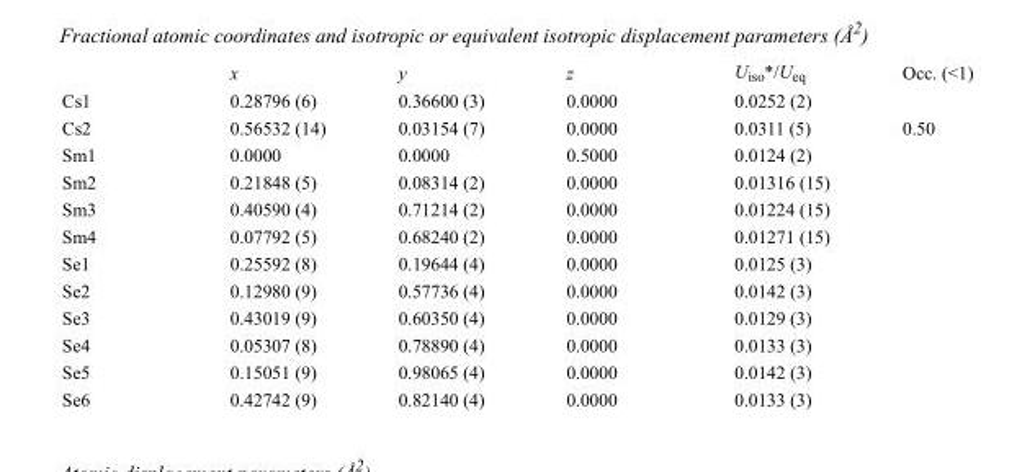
<table><thead><tr><td></td><td>x</td><td>y</td><td>z</td><td>U<sub>iso</sub>*/U<sub>eq</sub></td><td>Occ. (&lt;1)</td></tr></thead><tbody><tr><td>Cs1</td><td>0.28796 (6)</td><td>0.36600 (3)</td><td>0.0000</td><td>0.0252 (2)</td><td></td></tr><tr><td>Cs2</td><td>0.56532 (14)</td><td>0.03154 (7)</td><td>0.0000</td><td>0.0311 (5)</td><td>0.50</td></tr><tr><td>Sm1</td><td>0.0000</td><td>0.0000</td><td>0.5000</td><td>0.0124 (2)</td><td></td></tr><tr><td>Sm2</td><td>0.21848 (5)</td><td>0.08314 (2)</td><td>0.0000</td><td>0.01316 (15)</td><td></td></tr><tr><td>Sm3</td><td>0.40590 (4)</td><td>0.71214 (2)</td><td>0.0000</td><td>0.01224 (15)</td><td></td></tr><tr><td>Sm4</td><td>0.07792 (5)</td><td>0.68240 (2)</td><td>0.0000</td><td>0.01271 (15)</td><td></td></tr><tr><td>Se1</td><td>0.25592 (8)</td><td>0.19644 (4)</td><td>0.0000</td><td>0.0125 (3)</td><td></td></tr><tr><td>Se2</td><td>0.12980 (9)</td><td>0.57736 (4)</td><td>0.0000</td><td>0.0142 (3)</td><td></td></tr><tr><td>Se3</td><td>0.43019 (9)</td><td>0.60350 (4)</td><td>0.0000</td><td>0.0129 (3)</td><td></td></tr><tr><td>Se4</td><td>0.05307 (8)</td><td>0.78890 (4)</td><td>0.0000</td><td>0.0133 (3)</td><td></td></tr><tr><td>Se5</td><td>0.15051 (9)</td><td>0.98065 (4)</td><td>0.0000</td><td>0.0142 (3)</td><td></td></tr><tr><td>Se6</td><td>0.42742 (9)</td><td>0.82140 (4)</td><td>0.0000</td><td>0.0133 (3)</td><td></td></tr></tbody></table>